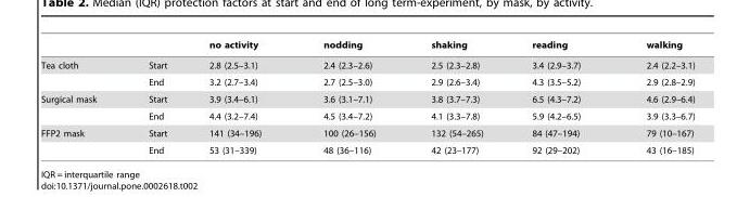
<table><thead><tr><td></td><td></td><td>no activity</td><td>nodding</td><td>shaking</td><td>reading</td><td>walking</td></tr></thead><tbody><tr><td rowspan="2">Tea cloth</td><td>Start</td><td>2.8 (2.5–3.1)</td><td>2.4 (2.3–2.6)</td><td>2.5 (2.3–2.8)</td><td>3.4 (2.9–3.7)</td><td>2.4 (2.2–3.1)</td></tr><tr><td>End</td><td>3.2 (2.7–3.4)</td><td>2.7 (2.5–3.0)</td><td>2.9 (2.6–3.4)</td><td>4.3 (3.5–5.2)</td><td>2.9 (2.8–2.9)</td></tr><tr><td rowspan="2">Surgical mask</td><td>Start</td><td>3.9 (3.4–6.1)</td><td>3.6 (3.1–7.1)</td><td>3.8 (3.7–7.3)</td><td>6.5 (4.3–7.2)</td><td>4.6 (2.9–6.4)</td></tr><tr><td>End</td><td>4.4 (3.2–7.4)</td><td>4.5 (3.4–7.2)</td><td>4.1 (3.3–7.8)</td><td>5.9 (4.2–6.5)</td><td>3.9 (3.3–6.7)</td></tr><tr><td rowspan="2">FFP2 mask</td><td>Start</td><td>141 (34–196)</td><td>100 (26–156)</td><td>132 (54–265)</td><td>84 (47–194)</td><td>79 (10–167)</td></tr><tr><td>End</td><td>53 (31–339)</td><td>48 (36–116)</td><td>42 (23–177)</td><td>92 (29–202)</td><td>43 (16–185)</td></tr></tbody></table>